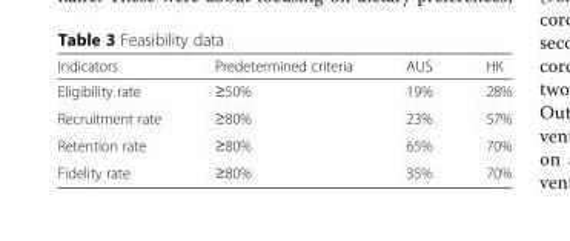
<table><thead><tr><td>Indicators</td><td>Predetermined criteria</td><td>AUS</td><td>HK</td></tr></thead><tbody><tr><td>Eligibility rate</td><td>≥50%</td><td>19%</td><td>28%</td></tr><tr><td>Recruitment rate</td><td>≥80%</td><td>23%</td><td>57%</td></tr><tr><td>Retention rate</td><td>≥80%</td><td>65%</td><td>70%</td></tr><tr><td>Fidelity rate</td><td>≥80%</td><td>35%</td><td>70%</td></tr></tbody></table>